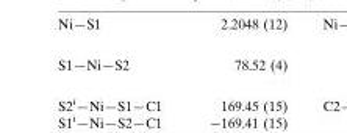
<table><tbody><tr><td>S1—Ni—S2</td><td>78.52 (4)</td></tr></tbody></table>